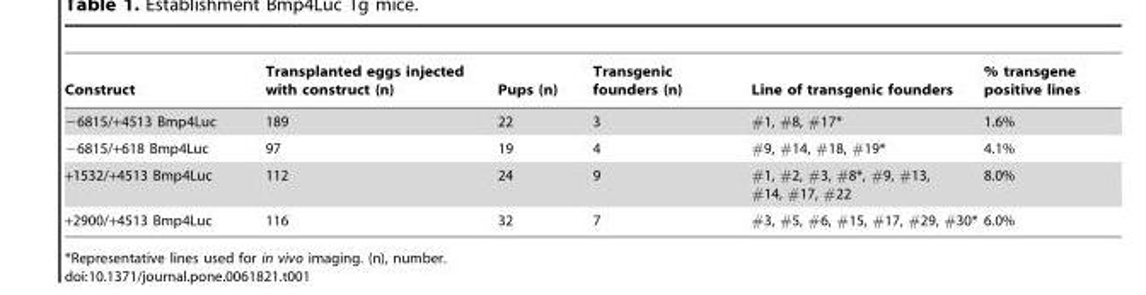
<table><thead><tr><td>Construct</td><td>Transplanted eggs injected with construct (n)</td><td>Pups (n)</td><td>Transgenic founders (n)</td><td>Line of transgenic founders</td><td>% transgene positive lines</td></tr></thead><tbody><tr><td>−6815/+4513 Bmp4Luc</td><td>189</td><td>22</td><td>3</td><td>#1, #8, #17*</td><td>1.6%</td></tr><tr><td>−6815/+618 Bmp4Luc</td><td>97</td><td>19</td><td>4</td><td>#9, #14, #18, #19*</td><td>4.1%</td></tr><tr><td>+1532/+4513 Bmp4Luc</td><td>112</td><td>24</td><td>9</td><td>#1, #2, #3, #8*, #9, #13, #14, #17, #22</td><td>8.0%</td></tr><tr><td>+2900/+4513 Bmp4Luc</td><td>116</td><td>32</td><td>7</td><td>#3, #5, #6, #15, #17, #29, #30*</td><td>6.0%</td></tr></tbody></table>